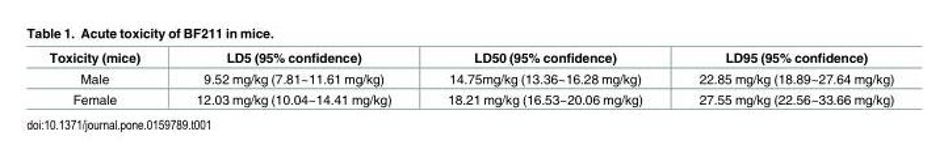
<table><thead><tr><td>Toxicity (mice)</td><td>LD5 (95% confidence)</td><td>LD50 (95% confidence)</td><td>LD95 (95% confidence)</td></tr></thead><tbody><tr><td>Male</td><td>9.52 mg/kg (7.81~11.61 mg/kg)</td><td>14.75mg/kg (13.36~16.28 mg/kg)</td><td>22.85 mg/kg (18.89~27.64 mg/kg)</td></tr><tr><td>Female</td><td>12.03 mg/kg (10.04~14.41 mg/kg)</td><td>18.21 mg/kg (16.53~20.06 mg/kg)</td><td>27.55 mg/kg (22.56~33.66 mg/kg)</td></tr></tbody></table>